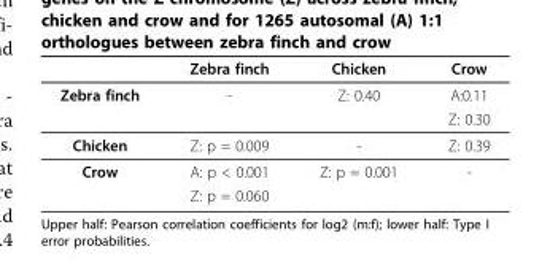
<table><thead><tr><td></td><td>Zebra finch</td><td>Chicken</td><td>Crow</td></tr></thead><tbody><tr><td rowspan="2">Zebra finch</td><td>-</td><td>Z: 0.40</td><td>A:0.11</td></tr><tr><td></td><td></td><td>Z: 0.30</td></tr><tr><td>Chicken</td><td>Z: p = 0.009</td><td>-</td><td>Z: 0.39</td></tr><tr><td rowspan="2">Crow</td><td>A: p &lt; 0.001</td><td>Z: p = 0.001</td><td>-</td></tr><tr><td>Z: p = 0.060</td><td></td><td></td></tr></tbody></table>